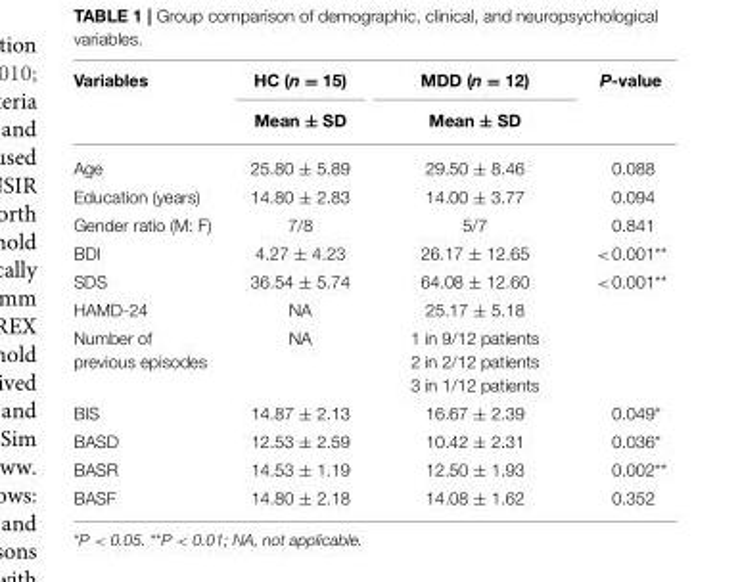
<table><thead><tr><td rowspan="2">Variables</td><td rowspan="2">HC (n = 15) Mean ± SD</td><td rowspan="2">MDD (n = 12) Mean ± SD</td><td rowspan="2">P-value</td></tr><tr></tr></thead><tbody><tr><td>Age</td><td>25.80 ± 5.89</td><td>29.50 ± 8.46</td><td>0.088</td></tr><tr><td>Education (years)</td><td>14.80 ± 2.83</td><td>14.00 ± 3.77</td><td>0.094</td></tr><tr><td>Gender ratio (M: F)</td><td>7/8</td><td>5/7</td><td>0.841</td></tr><tr><td>BDI</td><td>4.27 ± 4.23</td><td>26.17 ± 12.65</td><td>&lt;0.001**</td></tr><tr><td>SDS</td><td>36.54 ± 5.74</td><td>64.08 ± 12.60</td><td>&lt;0.001**</td></tr><tr><td>HAMD-24</td><td>NA</td><td>25.17 ± 5.18</td><td></td></tr><tr><td>Number of previous episodes</td><td>NA</td><td>1 in 9/12 patients 2 in 2/12 patients 3 in 1/12 patients</td><td></td></tr><tr><td>BIS</td><td>14.87 ± 2.13</td><td>16.67 ± 2.39</td><td>0.049*</td></tr><tr><td>BASD</td><td>12.53 ± 2.59</td><td>10.42 ± 2.31</td><td>0.036*</td></tr><tr><td>BASR</td><td>14.53 ± 1.19</td><td>12.50 ± 1.93</td><td>0.002**</td></tr><tr><td>BASF</td><td>14.80 ± 2.18</td><td>14.08 ± 1.62</td><td>0.352</td></tr></tbody></table>